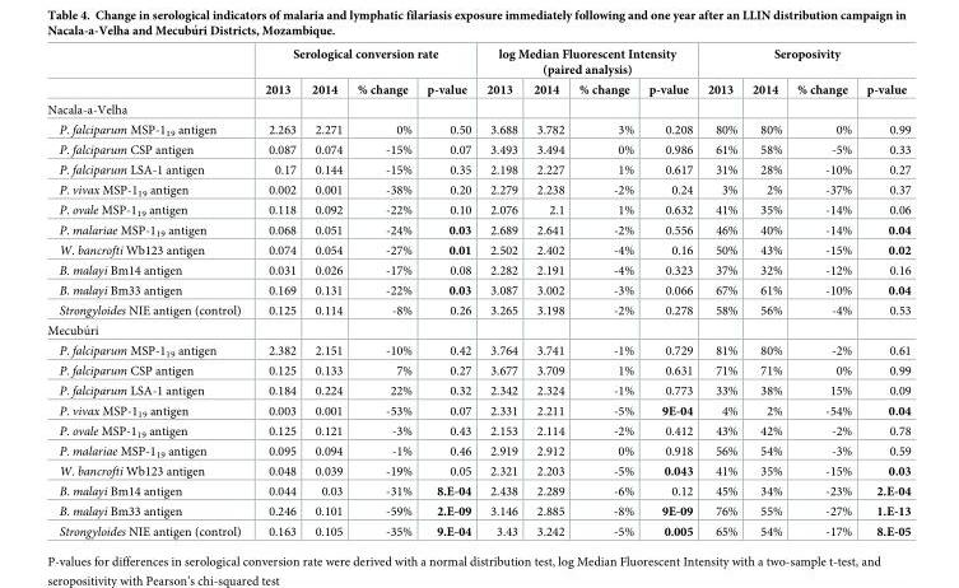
<table><thead><tr><td rowspan="2"></td><td colspan="4">Serological conversion rate</td><td colspan="4">log Median Fluorescent Intensity (paired analysis)</td><td colspan="4">Seroposivity</td></tr><tr><td>2013</td><td>2014</td><td>% change</td><td>p-value</td><td>2013</td><td>2014</td><td>% change</td><td>p-value</td><td>2013</td><td>2014</td><td>% change</td><td>p-value</td></tr></thead><tbody><tr><td colspan="13">Nacala-a-Velha</td></tr><tr><td>P. falciparum MSP-1<sub>19</sub> antigen</td><td>2.263</td><td>2.271</td><td>0%</td><td>0.50</td><td>3.688</td><td>3.782</td><td>3%</td><td>0.208</td><td>80%</td><td>80%</td><td>0%</td><td>0.99</td></tr><tr><td>P. falciparum CSP antigen</td><td>0.087</td><td>0.074</td><td>-15%</td><td>0.07</td><td>3.493</td><td>3.494</td><td>0%</td><td>0.986</td><td>61%</td><td>58%</td><td>-5%</td><td>0.33</td></tr><tr><td>P. falciparum LSA-1 antigen</td><td>0.17</td><td>0.144</td><td>-15%</td><td>0.35</td><td>2.198</td><td>2.227</td><td>1%</td><td>0.617</td><td>31%</td><td>28%</td><td>-10%</td><td>0.27</td></tr><tr><td>P. vivax MSP-1<sub>19</sub> antigen</td><td>0.002</td><td>0.001</td><td>-38%</td><td>0.20</td><td>2.279</td><td>2.238</td><td>-2%</td><td>0.24</td><td>3%</td><td>2%</td><td>-37%</td><td>0.37</td></tr><tr><td>P. ovale MSP-1<sub>19</sub> antigen</td><td>0.118</td><td>0.092</td><td>-22%</td><td>0.10</td><td>2.076</td><td>2.1</td><td>1%</td><td>0.632</td><td>41%</td><td>35%</td><td>-14%</td><td>0.06</td></tr><tr><td>P. malariae MSP-1<sub>19</sub> antigen</td><td>0.068</td><td>0.051</td><td>-24%</td><td>0.03</td><td>2.689</td><td>2.641</td><td>-2%</td><td>0.556</td><td>46%</td><td>40%</td><td>-14%</td><td>0.04</td></tr><tr><td>W. bancrofti Wb123 antigen</td><td>0.074</td><td>0.054</td><td>-27%</td><td>0.01</td><td>2.502</td><td>2.402</td><td>-4%</td><td>0.16</td><td>50%</td><td>43%</td><td>-15%</td><td>0.02</td></tr><tr><td>B. malayi Bm14 antigen</td><td>0.031</td><td>0.026</td><td>-17%</td><td>0.08</td><td>2.282</td><td>2.191</td><td>-4%</td><td>0.323</td><td>37%</td><td>32%</td><td>-12%</td><td>0.16</td></tr><tr><td>B. malayi Bm33 antigen</td><td>0.169</td><td>0.131</td><td>-22%</td><td>0.03</td><td>3.087</td><td>3.002</td><td>-3%</td><td>0.066</td><td>67%</td><td>61%</td><td>-10%</td><td>0.04</td></tr><tr><td>Strongyloides NIE antigen (control)</td><td>0.125</td><td>0.114</td><td>-8%</td><td>0.26</td><td>3.265</td><td>3.198</td><td>-2%</td><td>0.278</td><td>58%</td><td>56%</td><td>-4%</td><td>0.53</td></tr><tr><td colspan="13">Mecubu´ri</td></tr><tr><td>P. falciparum MSP-1<sub>19</sub> antigen</td><td>2.382</td><td>2.151</td><td>-10%</td><td>0.42</td><td>3.764</td><td>3.741</td><td>-1%</td><td>0.729</td><td>81%</td><td>80%</td><td>-2%</td><td>0.61</td></tr><tr><td>P. falciparum CSP antigen</td><td>0.125</td><td>0.133</td><td>7%</td><td>0.27</td><td>3.677</td><td>3.709</td><td>1%</td><td>0.631</td><td>71%</td><td>71%</td><td>0%</td><td>0.99</td></tr><tr><td>P. falciparum LSA-1 antigen</td><td>0.184</td><td>0.224</td><td>22%</td><td>0.32</td><td>2.342</td><td>2.324</td><td>-1%</td><td>0.773</td><td>33%</td><td>38%</td><td>15%</td><td>0.09</td></tr><tr><td>P. vivax MSP-1<sub>19</sub> antigen</td><td>0.003</td><td>0.001</td><td>-53%</td><td>0.07</td><td>2.331</td><td>2.211</td><td>-5%</td><td>9E-04</td><td>4%</td><td>2%</td><td>-54%</td><td>0.04</td></tr><tr><td>P. ovale MSP-1<sub>19</sub> antigen</td><td>0.125</td><td>0.121</td><td>-3%</td><td>0.43</td><td>2.153</td><td>2.114</td><td>-2%</td><td>0.412</td><td>43%</td><td>42%</td><td>-2%</td><td>0.78</td></tr><tr><td>P. malariae MSP-1<sub>19</sub> antigen</td><td>0.095</td><td>0.094</td><td>-1%</td><td>0.46</td><td>2.919</td><td>2.912</td><td>0%</td><td>0.918</td><td>56%</td><td>54%</td><td>-3%</td><td>0.59</td></tr><tr><td>W. bancrofti Wb123 antigen</td><td>0.048</td><td>0.039</td><td>-19%</td><td>0.05</td><td>2.321</td><td>2.203</td><td>-5%</td><td>0.043</td><td>41%</td><td>35%</td><td>-15%</td><td>0.03</td></tr><tr><td>B. malayi Bm14 antigen</td><td>0.044</td><td>0.03</td><td>-31%</td><td>8.E-04</td><td>2.438</td><td>2.289</td><td>-6%</td><td>0.12</td><td>45%</td><td>34%</td><td>-23%</td><td>2.E-04</td></tr><tr><td>B. malayi Bm33 antigen</td><td>0.246</td><td>0.101</td><td>-59%</td><td>2.E-09</td><td>3.146</td><td>2.885</td><td>-8%</td><td>9E-09</td><td>76%</td><td>55%</td><td>-27%</td><td>1.E-13</td></tr><tr><td>Strongyloides NIE antigen (control)</td><td>0.163</td><td>0.105</td><td>-35%</td><td>9.E-04</td><td>3.43</td><td>3.242</td><td>-5%</td><td>0.005</td><td>65%</td><td>54%</td><td>-17%</td><td>8.E-05</td></tr></tbody></table>